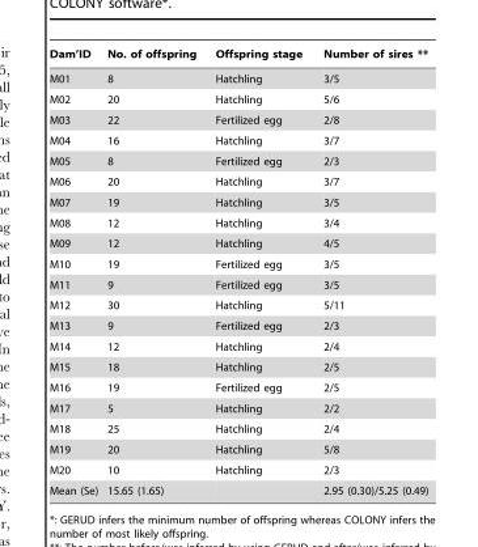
<table><thead><tr><td>Dam’ID</td><td>No. of offspring</td><td>Offspring stage</td><td>Number of sires **</td></tr></thead><tbody><tr><td>M01</td><td>8</td><td>Hatchling</td><td>3/5</td></tr><tr><td>M02</td><td>20</td><td>Hatchling</td><td>5/6</td></tr><tr><td>M03</td><td>22</td><td>Fertilized egg</td><td>2/8</td></tr><tr><td>M04</td><td>16</td><td>Hatchling</td><td>3/7</td></tr><tr><td>M05</td><td>8</td><td>Fertilized egg</td><td>2/3</td></tr><tr><td>M06</td><td>20</td><td>Hatchling</td><td>3/7</td></tr><tr><td>M07</td><td>19</td><td>Hatchling</td><td>3/5</td></tr><tr><td>M08</td><td>12</td><td>Hatchling</td><td>3/4</td></tr><tr><td>M09</td><td>12</td><td>Hatchling</td><td>4/5</td></tr><tr><td>M10</td><td>19</td><td>Fertilized egg</td><td>3/5</td></tr><tr><td>M11</td><td>9</td><td>Fertilized egg</td><td>3/5</td></tr><tr><td>M12</td><td>30</td><td>Hatchling</td><td>5/11</td></tr><tr><td>M13</td><td>9</td><td>Fertilized egg</td><td>2/3</td></tr><tr><td>M14</td><td>12</td><td>Hatchling</td><td>2/4</td></tr><tr><td>M15</td><td>18</td><td>Hatchling</td><td>2/5</td></tr><tr><td>M16</td><td>19</td><td>Fertilized egg</td><td>2/5</td></tr><tr><td>M17</td><td>5</td><td>Hatchling</td><td>2/2</td></tr><tr><td>M18</td><td>25</td><td>Hatchling</td><td>2/4</td></tr><tr><td>M19</td><td>20</td><td>Hatchling</td><td>5/8</td></tr><tr><td>M20</td><td>10</td><td>Hatchling</td><td>2/3</td></tr><tr><td>Mean (Se)</td><td>15.65 (1.65)</td><td></td><td>2.95 (0.30)/5.25 (0.49)</td></tr></tbody></table>